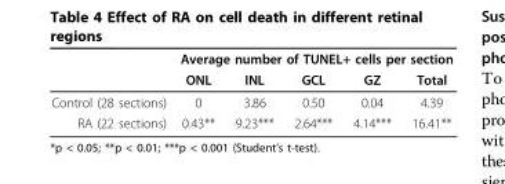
<table><thead><tr><td rowspan="2"></td><td colspan="5">Average number of TUNEL+ cells per section</td></tr><tr><td>ONL</td><td>INL</td><td>GCL</td><td>GZ</td><td>Total</td></tr></thead><tbody><tr><td>Control (28 sections)</td><td>0</td><td>3.86</td><td>0.50</td><td>0.04</td><td>4.39</td></tr><tr><td>RA (22 sections)</td><td>0.43**</td><td>9.23***</td><td>2.64***</td><td>4.14***</td><td>16.41**</td></tr></tbody></table>